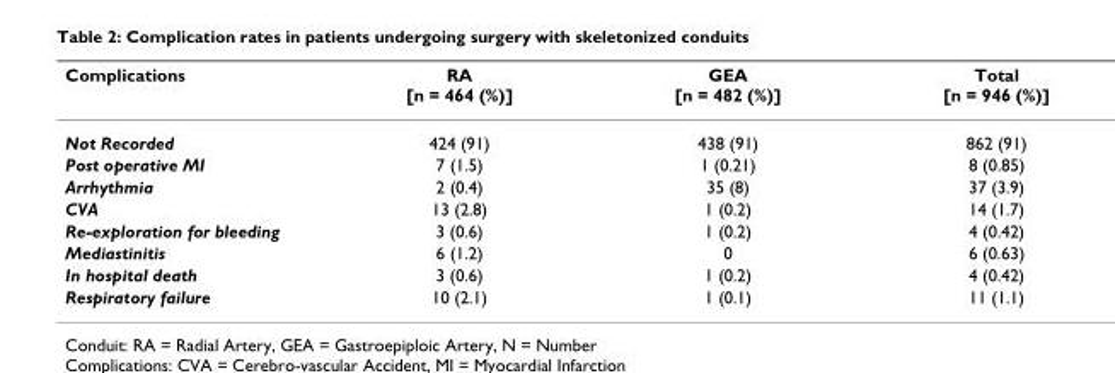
<table><thead><tr><td>Complications</td><td>RA [n = 464 (%)]</td><td>GEA [n = 482 (%)]</td><td>Total [n = 946 (%)]</td></tr></thead><tbody><tr><td>Not Recorded</td><td>424 (91)</td><td>438 (91)</td><td>862 (91)</td></tr><tr><td>Post operative MI</td><td>7 (1.5)</td><td>1 (0.21)</td><td>8 (0.85)</td></tr><tr><td>Arrhythmia</td><td>2 (0.4)</td><td>35 (8)</td><td>37 (3.9)</td></tr><tr><td>CVA</td><td>13 (2.8)</td><td>1 (0.2)</td><td>14 (1.7)</td></tr><tr><td>Re-exploration for bleeding</td><td>3 (0.6)</td><td>1 (0.2)</td><td>4 (0.42)</td></tr><tr><td>Mediastinitis</td><td>6 (1.2)</td><td>0</td><td>6 (0.63)</td></tr><tr><td>In hospital death</td><td>3 (0.6)</td><td>1 (0.2)</td><td>4 (0.42)</td></tr><tr><td>Respiratory failure</td><td>10 (2.1)</td><td>1 (0.1)</td><td>11 (1.1)</td></tr></tbody></table>